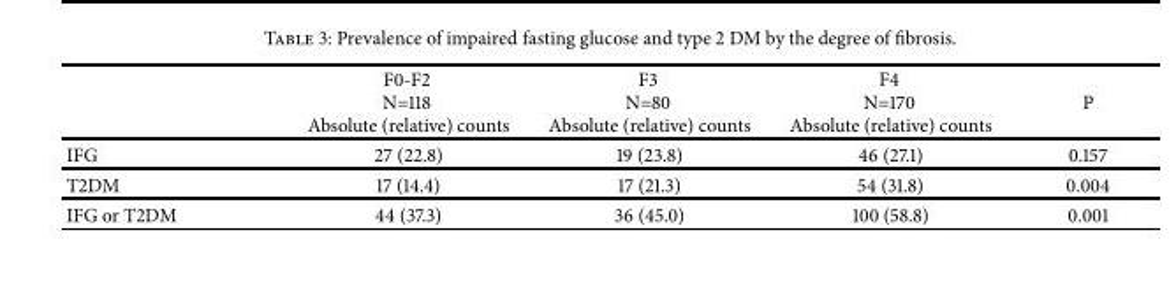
<table><thead><tr><td></td><td>F0-F2 N=118 Absolute (relative) counts</td><td>F3 N=80 Absolute (relative) counts</td><td>F4 N=170 Absolute (relative) counts</td><td>P</td></tr></thead><tbody><tr><td>IFG</td><td>27 (22.8)</td><td>19 (23.8)</td><td>46 (27.1)</td><td>0.157</td></tr><tr><td>T2DM</td><td>17 (14.4)</td><td>17 (21.3)</td><td>54 (31.8)</td><td>0.004</td></tr><tr><td>IFG or T2DM</td><td>44 (37.3)</td><td>36 (45.0)</td><td>100 (58.8)</td><td>0.001</td></tr></tbody></table>